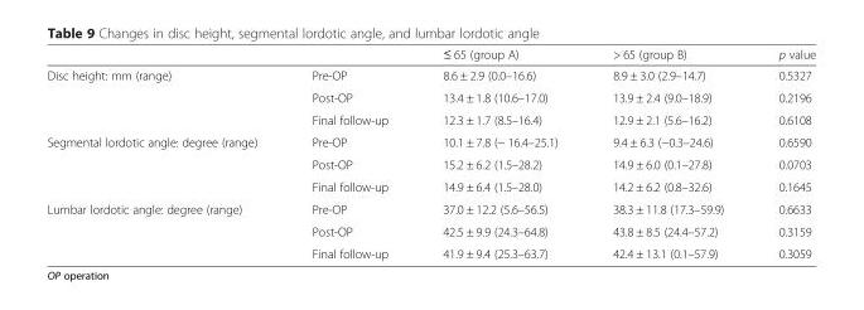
<table><thead><tr><td></td><td></td><td>≤ 65 (group A)</td><td>&gt; 65 (group B)</td><td>p value</td></tr></thead><tbody><tr><td rowspan="3">Disc height: mm (range)</td><td>Pre-OP</td><td>8.6 ± 2.9 (0.0–16.6)</td><td>8.9 ± 3.0 (2.9–14.7)</td><td>0.5327</td></tr><tr><td>Post-OP</td><td>13.4 ± 1.8 (10.6–17.0)</td><td>13.9 ± 2.4 (9.0–18.9)</td><td>0.2196</td></tr><tr><td>Final follow-up</td><td>12.3 ± 1.7 (8.5–16.4)</td><td>12.9 ± 2.1 (5.6–16.2)</td><td>0.6108</td></tr><tr><td rowspan="3">Segmental lordotic angle: degree (range)</td><td>Pre-OP</td><td>10.1 ± 7.8 (− 16.4–25.1)</td><td>9.4 ± 6.3 (−0.3–24.6)</td><td>0.6590</td></tr><tr><td>Post-OP</td><td>15.2 ± 6.2 (1.5–28.2)</td><td>14.9 ± 6.0 (0.1–27.8)</td><td>0.0703</td></tr><tr><td>Final follow-up</td><td>14.9 ± 6.4 (1.5–28.0)</td><td>14.2 ± 6.2 (0.8–32.6)</td><td>0.1645</td></tr><tr><td rowspan="3">Lumbar lordotic angle: degree (range)</td><td>Pre-OP</td><td>37.0 ± 12.2 (5.6–56.5)</td><td>38.3 ± 11.8 (17.3–59.9)</td><td>0.6633</td></tr><tr><td>Post-OP</td><td>42.5 ± 9.9 (24.3–64.8)</td><td>43.8 ± 8.5 (24.4–57.2)</td><td>0.3159</td></tr><tr><td>Final follow-up</td><td>41.9 ± 9.4 (25.3–63.7)</td><td>42.4 ± 13.1 (0.1–57.9)</td><td>0.3059</td></tr></tbody></table>